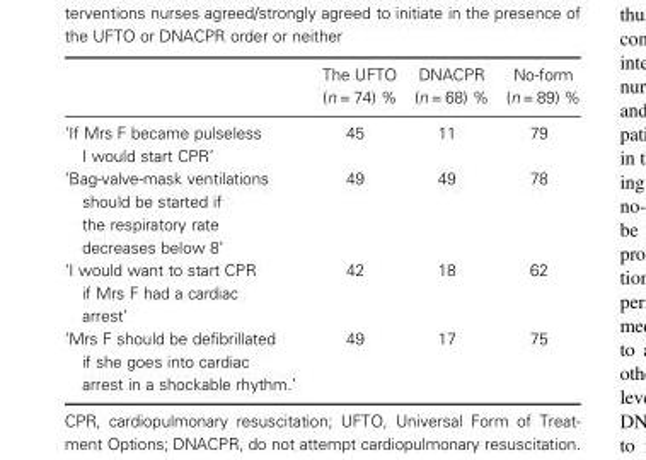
<table><thead><tr><td></td><td>The UFTO (n = 74) %</td><td>DNACPR (n = 68) %</td><td>No-form (n = 89) %</td></tr></thead><tbody><tr><td>‘If Mrs F became pulseless I would start CPR’</td><td>45</td><td>11</td><td>79</td></tr><tr><td>‘Bag-valve-mask ventilations should be started if the respiratory rate decreases below 8’</td><td>49</td><td>49</td><td>78</td></tr><tr><td>‘I would want to start CPR if Mrs F had a cardiac arrest’</td><td>42</td><td>18</td><td>62</td></tr><tr><td>‘Mrs F should be defibrillated if she goes into cardiac arrest in a shockable rhythm.’</td><td>49</td><td>17</td><td>75</td></tr></tbody></table>